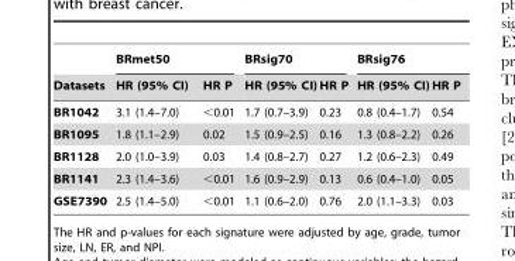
<table><thead><tr><td rowspan="2">Datasets</td><td colspan="2">BRmet50</td><td colspan="2">BRsig70</td><td colspan="2">BRsig76</td></tr><tr><td>HR (95% CI)</td><td>HR P</td><td>HR (95% CI)</td><td>HR P</td><td>HR (95% CI)</td><td>HR P</td></tr></thead><tbody><tr><td>BR1042</td><td>3.1 (1.4–7.0)</td><td>&lt;0.01</td><td>1.7 (0.7–3.9)</td><td>0.23</td><td>0.8 (0.4–1.7)</td><td>0.54</td></tr><tr><td>BR1095</td><td>1.8 (1.1–2.9)</td><td>0.02</td><td>1.5 (0.9–2.5)</td><td>0.16</td><td>1.3 (0.8–2.2)</td><td>0.26</td></tr><tr><td>BR1128</td><td>2.0 (1.0–3.9)</td><td>0.03</td><td>1.4 (0.8–2.7)</td><td>0.27</td><td>1.2 (0.6–2.3)</td><td>0.49</td></tr><tr><td>BR1141</td><td>2.3 (1.4–3.6)</td><td>&lt;0.01</td><td>1.6 (0.9–2.9)</td><td>0.13</td><td>0.6 (0.4–1.0)</td><td>0.05</td></tr><tr><td>GSE7390</td><td>2.5 (1.4–5.0)</td><td>&lt;0.01</td><td>1.1 (0.6–2.0)</td><td>0.76</td><td>2.0 (1.1–3.3)</td><td>0.03</td></tr></tbody></table>